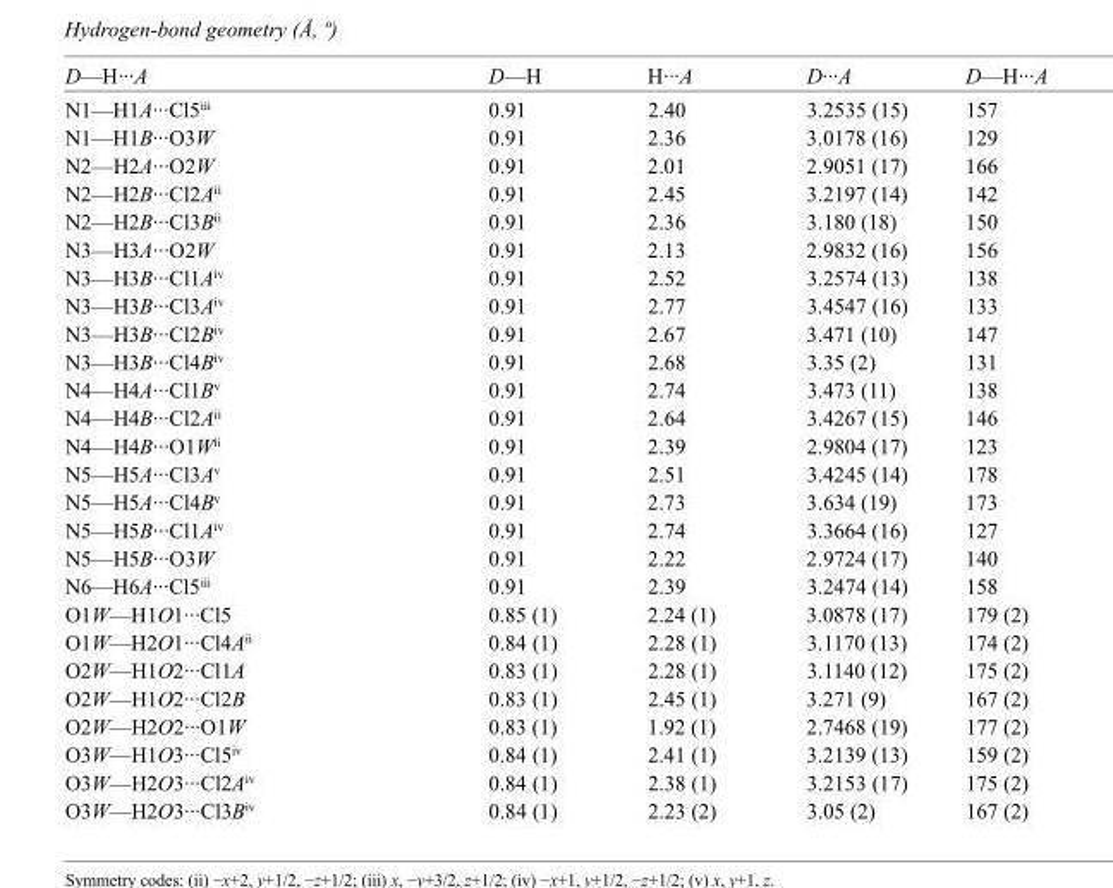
<table><tbody><tr><td>D—H···A</td><td>D—H</td><td>H···A</td><td>D···A</td><td>D—H···A</td></tr><tr><td>N1—H1A···Cl5<sup>iii</sup></td><td>0.91</td><td>2.40</td><td>3.2535 (15)</td><td>157</td></tr><tr><td>N1—H1B···O3W</td><td>0.91</td><td>2.36</td><td>3.0178 (16)</td><td>129</td></tr><tr><td>N2—H2A···O2W</td><td>0.91</td><td>2.01</td><td>2.9051 (17)</td><td>166</td></tr><tr><td>N2—H2B···Cl2A<sup>ii</sup></td><td>0.91</td><td>2.45</td><td>3.2197 (14)</td><td>142</td></tr><tr><td>N2—H2B···Cl3B<sup>ii</sup></td><td>0.91</td><td>2.36</td><td>3.180 (18)</td><td>150</td></tr><tr><td>N3—H3A···O2W</td><td>0.91</td><td>2.13</td><td>2.9832 (16)</td><td>156</td></tr><tr><td>N3—H3B···Cl1A<sup>iv</sup></td><td>0.91</td><td>2.52</td><td>3.2574 (13)</td><td>138</td></tr><tr><td>N3—H3B···Cl3A<sup>iv</sup></td><td>0.91</td><td>2.77</td><td>3.4547 (16)</td><td>133</td></tr><tr><td>N3—H3B···Cl2B<sup>iv</sup></td><td>0.91</td><td>2.67</td><td>3.471 (10)</td><td>147</td></tr><tr><td>N3—H3B···Cl4B<sup>iv</sup></td><td>0.91</td><td>2.68</td><td>3.35 (2)</td><td>131</td></tr><tr><td>N4—H4A···Cl1B<sup>v</sup></td><td>0.91</td><td>2.74</td><td>3.473 (11)</td><td>138</td></tr><tr><td>N4—H4B···Cl2A<sup>ii</sup></td><td>0.91</td><td>2.64</td><td>3.4267 (15)</td><td>146</td></tr><tr><td>N4—H4B···O1W<sup>ii</sup></td><td>0.91</td><td>2.39</td><td>2.9804 (17)</td><td>123</td></tr><tr><td>N5—H5A···Cl3A<sup>v</sup></td><td>0.91</td><td>2.51</td><td>3.4245 (14)</td><td>178</td></tr><tr><td>N5—H5A···Cl4B<sup>v</sup></td><td>0.91</td><td>2.73</td><td>3.634 (19)</td><td>173</td></tr><tr><td>N5—H5B···Cl1A<sup>iv</sup></td><td>0.91</td><td>2.74</td><td>3.3664 (16)</td><td>127</td></tr><tr><td>N5—H5B···O3W</td><td>0.91</td><td>2.22</td><td>2.9724 (17)</td><td>140</td></tr><tr><td>N6—H6A···Cl5<sup>iii</sup></td><td>0.91</td><td>2.39</td><td>3.2474 (14)</td><td>158</td></tr><tr><td>O1W—H1O1···Cl5</td><td>0.85 (1)</td><td>2.24 (1)</td><td>3.0878 (17)</td><td>179 (2)</td></tr><tr><td>O1W—H2O1···Cl4A<sup>ii</sup></td><td>0.84 (1)</td><td>2.28 (1)</td><td>3.1170 (13)</td><td>174 (2)</td></tr><tr><td>O2W—H1O2···Cl1A</td><td>0.83 (1)</td><td>2.28 (1)</td><td>3.1140 (12)</td><td>175 (2)</td></tr><tr><td>O2W—H1O2···Cl2B</td><td>0.83 (1)</td><td>2.45 (1)</td><td>3.271 (9)</td><td>167 (2)</td></tr><tr><td>O2W—H2O2···O1W</td><td>0.83 (1)</td><td>1.92 (1)</td><td>2.7468 (19)</td><td>177 (2)</td></tr><tr><td>O3W—H1O3···Cl5<sup>iv</sup></td><td>0.84 (1)</td><td>2.41 (1)</td><td>3.2139 (13)</td><td>159 (2)</td></tr><tr><td>O3W—H2O3···Cl2A<sup>iv</sup></td><td>0.84 (1)</td><td>2.38 (1)</td><td>3.2153 (17)</td><td>175 (2)</td></tr><tr><td>O3W—H2O3···Cl3B<sup>iv</sup></td><td>0.84 (1)</td><td>2.23 (2)</td><td>3.05 (2)</td><td>167 (2)</td></tr></tbody></table>